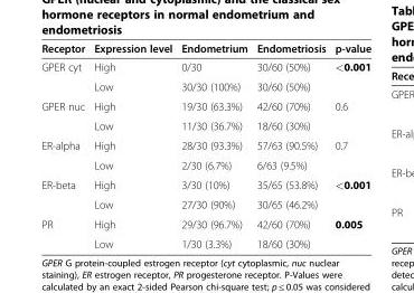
<table><thead><tr><td>Receptor</td><td>Expression level</td><td>Endometrium</td><td>Endometriosis</td><td>p-value</td></tr></thead><tbody><tr><td rowspan="2">GPER cyt</td><td>High</td><td>0/30</td><td>30/60 (50%)</td><td>&lt;0.001</td></tr><tr><td>Low</td><td>30/30 (100%)</td><td>30/60 (50%)</td><td></td></tr><tr><td rowspan="2">GPER nuc</td><td>High</td><td>19/30 (63.3%)</td><td>42/60 (70%)</td><td>0.6</td></tr><tr><td>Low</td><td>11/30 (36.7%)</td><td>18/60 (30%)</td><td></td></tr><tr><td rowspan="2">ER-alpha</td><td>High</td><td>28/30 (93.3%)</td><td>57/63 (90.5%)</td><td>0.7</td></tr><tr><td>Low</td><td>2/30 (6.7%)</td><td>6/63 (9.5%)</td><td></td></tr><tr><td rowspan="2">ER-beta</td><td>High</td><td>3/30 (10%)</td><td>35/65 (53.8%)</td><td>&lt;0.001</td></tr><tr><td>Low</td><td>27/30 (90%)</td><td>30/65 (46.2%)</td><td></td></tr><tr><td rowspan="2">PR</td><td>High</td><td>29/30 (96.7%)</td><td>42/60 (70%)</td><td>0.005</td></tr><tr><td>Low</td><td>1/30 (3.3%)</td><td>18/60 (30%)</td><td></td></tr></tbody></table>